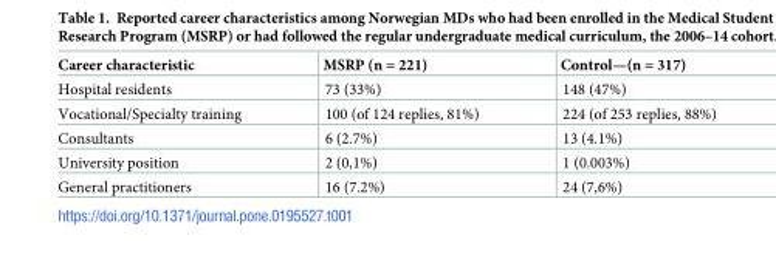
<table><thead><tr><td>Career characteristic</td><td>MSRP (n = 221)</td><td>Control—(n = 317)</td></tr></thead><tbody><tr><td>Hospital residents</td><td>73 (33%)</td><td>148 (47%)</td></tr><tr><td>Vocational/Specialty training</td><td>100 (of 124 replies, 81%)</td><td>224 (of 253 replies, 88%)</td></tr><tr><td>Consultants</td><td>6 (2.7%)</td><td>13 (4.1%)</td></tr><tr><td>University position</td><td>2 (0,1%)</td><td>1 (0.003%)</td></tr><tr><td>General practitioners</td><td>16 (7.2%)</td><td>24 (7,6%)</td></tr></tbody></table>